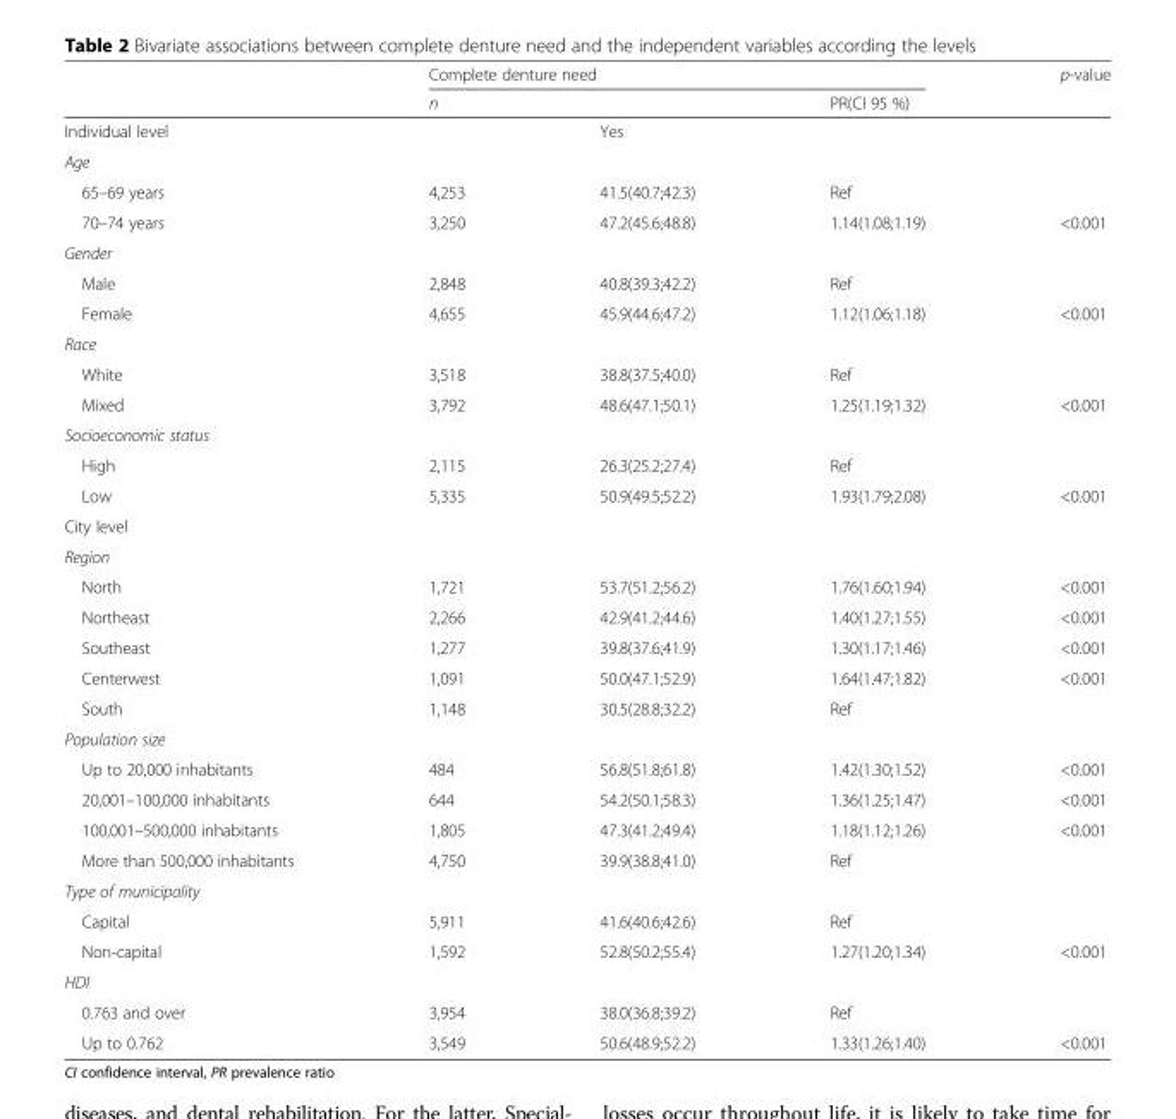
<table><thead><tr><td rowspan="2"></td><td colspan="3">Complete denture need</td><td rowspan="2">p-value</td></tr><tr><td>n</td><td></td><td>PR(CI 95 %)</td></tr></thead><tbody><tr><td>Individual level</td><td></td><td>Yes</td><td></td><td></td></tr><tr><td colspan="5">Age</td></tr><tr><td>65–69 years</td><td>4,253</td><td>41.5(40.7;42.3)</td><td>Ref</td><td></td></tr><tr><td>70–74 years</td><td>3,250</td><td>47.2(45.6;48.8)</td><td>1.14(1.08;1.19)</td><td>&lt;0.001</td></tr><tr><td colspan="5">Gender</td></tr><tr><td>Male</td><td>2,848</td><td>40.8(39.3;42.2)</td><td>Ref</td><td></td></tr><tr><td>Female</td><td>4,655</td><td>45.9(44.6;47.2)</td><td>1.12(1.06;1.18)</td><td>&lt;0.001</td></tr><tr><td colspan="5">Race</td></tr><tr><td>White</td><td>3,518</td><td>38.8(37.5;40.0)</td><td>Ref</td><td></td></tr><tr><td>Mixed</td><td>3,792</td><td>48.6(47.1;50.1)</td><td>1.25(1.19;1.32)</td><td>&lt;0.001</td></tr><tr><td colspan="5">Socioeconomic status</td></tr><tr><td>High</td><td>2,115</td><td>26.3(25.2;27.4)</td><td>Ref</td><td></td></tr><tr><td>Low</td><td>5,335</td><td>50.9(49.5;52.2)</td><td>1.93(1.79;2.08)</td><td>&lt;0.001</td></tr><tr><td colspan="5">City level</td></tr><tr><td colspan="5">Region</td></tr><tr><td>North</td><td>1,721</td><td>53.7(51.2;56.2)</td><td>1.76(1.60;1.94)</td><td>&lt;0.001</td></tr><tr><td>Northeast</td><td>2,266</td><td>42.9(41.2;44.6)</td><td>1.40(1.27;1.55)</td><td>&lt;0.001</td></tr><tr><td>Southeast</td><td>1,277</td><td>39.8(37.6;41.9)</td><td>1.30(1.17;1.46)</td><td>&lt;0.001</td></tr><tr><td>Centerwest</td><td>1,091</td><td>50.0(47.1;52.9)</td><td>1.64(1.47;1.82)</td><td>&lt;0.001</td></tr><tr><td>South</td><td>1,148</td><td>30.5(28.8;32.2)</td><td>Ref</td><td></td></tr><tr><td colspan="5">Population size</td></tr><tr><td>Up to 20,000 inhabitants</td><td>484</td><td>56.8(51.8;61.8)</td><td>1.42(1.30;1.52)</td><td>&lt;0.001</td></tr><tr><td>20,001–100,000 inhabitants</td><td>644</td><td>54.2(50.1;58.3)</td><td>1.36(1.25;1.47)</td><td>&lt;0.001</td></tr><tr><td>100,001–500,000 inhabitants</td><td>1,805</td><td>47.3(41.2;49.4)</td><td>1.18(1.12;1.26)</td><td>&lt;0.001</td></tr><tr><td>More than 500,000 inhabitants</td><td>4,750</td><td>39.9(38.8;41.0)</td><td>Ref</td><td></td></tr><tr><td colspan="5">Type of municipality</td></tr><tr><td>Capital</td><td>5,911</td><td>41.6(40.6;42.6)</td><td>Ref</td><td></td></tr><tr><td>Non-capital</td><td>1,592</td><td>52.8(50.2;55.4)</td><td>1.27(1.20;1.34)</td><td>&lt;0.001</td></tr><tr><td colspan="5">HDI</td></tr><tr><td>0.763 and over</td><td>3,954</td><td>38.0(36.8;39.2)</td><td>Ref</td><td></td></tr><tr><td>Up to 0.762</td><td>3,549</td><td>50.6(48.9;52.2)</td><td>1.33(1.26;1.40)</td><td>&lt;0.001</td></tr></tbody></table>